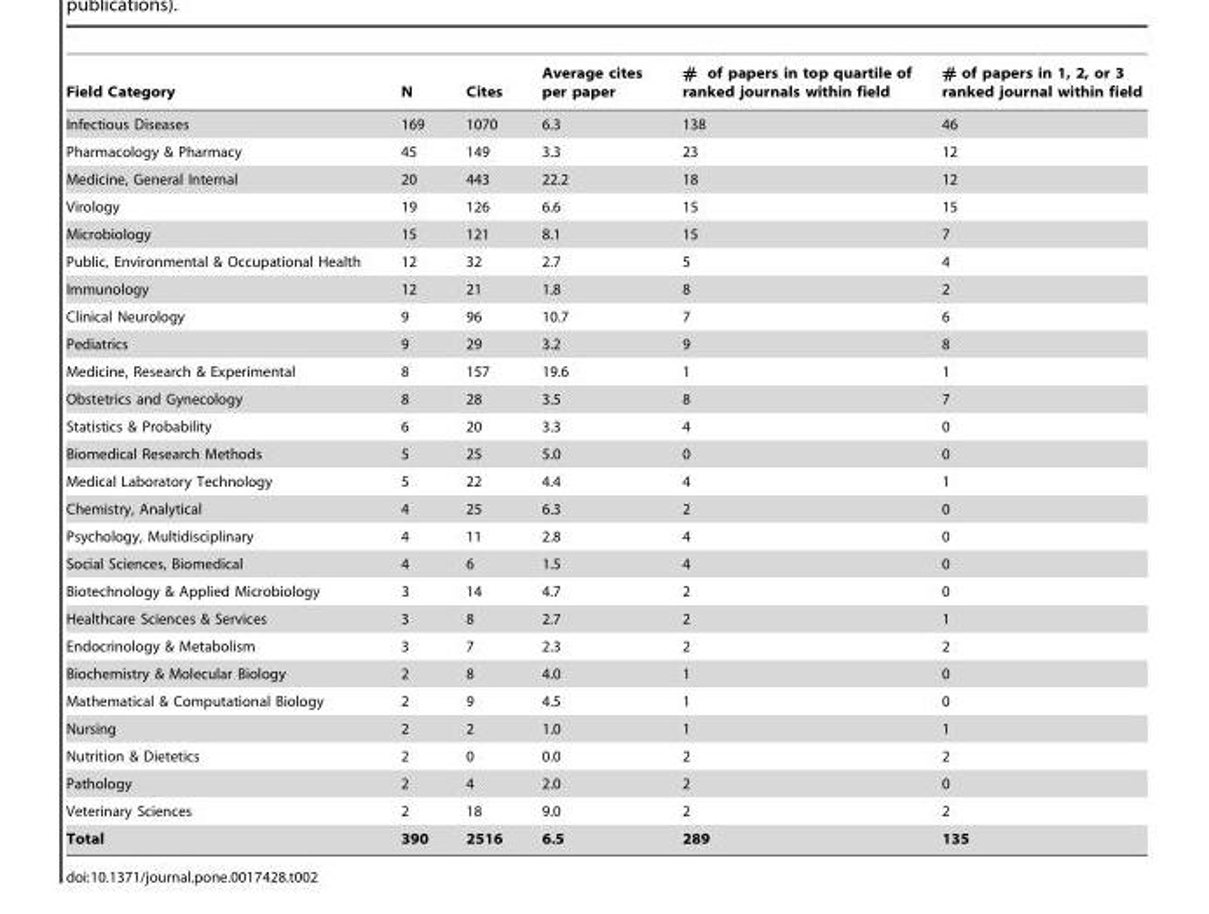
<table><thead><tr><td>Field Category</td><td>N</td><td>Cites</td><td>Average cites per paper</td><td># of papers in top quartile of ranked journals within field</td><td># of papers in 1, 2, or 3 ranked journal within field</td></tr></thead><tbody><tr><td>Infectious Diseases</td><td>169</td><td>1070</td><td>6.3</td><td>138</td><td>46</td></tr><tr><td>Pharmacology &amp; Pharmacy</td><td>45</td><td>149</td><td>3.3</td><td>23</td><td>12</td></tr><tr><td>Medicine, General Internal</td><td>20</td><td>443</td><td>22.2</td><td>18</td><td>12</td></tr><tr><td>Virology</td><td>19</td><td>126</td><td>6.6</td><td>15</td><td>15</td></tr><tr><td>Microbiology</td><td>15</td><td>121</td><td>8.1</td><td>15</td><td>7</td></tr><tr><td>Public, Environmental &amp; Occupational Health</td><td>12</td><td>32</td><td>2.7</td><td>5</td><td>4</td></tr><tr><td>Immunology</td><td>12</td><td>21</td><td>1.8</td><td>8</td><td>2</td></tr><tr><td>Clinical Neurology</td><td>9</td><td>96</td><td>10.7</td><td>7</td><td>6</td></tr><tr><td>Pediatrics</td><td>9</td><td>29</td><td>3.2</td><td>9</td><td>8</td></tr><tr><td>Medicine, Research &amp; Experimental</td><td>8</td><td>157</td><td>19.6</td><td>1</td><td>1</td></tr><tr><td>Obstetrics and Gynecology</td><td>8</td><td>28</td><td>3.5</td><td>8</td><td>7</td></tr><tr><td>Statistics &amp; Probability</td><td>6</td><td>20</td><td>3.3</td><td>4</td><td>0</td></tr><tr><td>Biomedical Research Methods</td><td>5</td><td>25</td><td>5.0</td><td>0</td><td>0</td></tr><tr><td>Medical Laboratory Technology</td><td>5</td><td>22</td><td>4.4</td><td>4</td><td>1</td></tr><tr><td>Chemistry, Analytical</td><td>4</td><td>25</td><td>6.3</td><td>2</td><td>0</td></tr><tr><td>Psychology, Multidisciplinary</td><td>4</td><td>11</td><td>2.8</td><td>4</td><td>0</td></tr><tr><td>Social Sciences, Biomedical</td><td>4</td><td>6</td><td>1.5</td><td>4</td><td>0</td></tr><tr><td>Biotechnology &amp; Applied Microbiology</td><td>3</td><td>14</td><td>4.7</td><td>2</td><td>0</td></tr><tr><td>Healthcare Sciences &amp; Services</td><td>3</td><td>8</td><td>2.7</td><td>2</td><td>1</td></tr><tr><td>Endocrinology &amp; Metabolism</td><td>3</td><td>7</td><td>2.3</td><td>2</td><td>2</td></tr><tr><td>Biochemistry &amp; Molecular Biology</td><td>2</td><td>8</td><td>4.0</td><td>1</td><td>0</td></tr><tr><td>Mathematical &amp; Computational Biology</td><td>2</td><td>9</td><td>4.5</td><td>1</td><td>0</td></tr><tr><td>Nursing</td><td>2</td><td>2</td><td>1.0</td><td>1</td><td>1</td></tr><tr><td>Nutrition &amp; Dietetics</td><td>2</td><td>0</td><td>0.0</td><td>2</td><td>2</td></tr><tr><td>Pathology</td><td>2</td><td>4</td><td>2.0</td><td>2</td><td>0</td></tr><tr><td>Veterinary Sciences</td><td>2</td><td>18</td><td>9.0</td><td>2</td><td>2</td></tr><tr><td>Total</td><td>390</td><td>2516</td><td>6.5</td><td>289</td><td>135</td></tr></tbody></table>